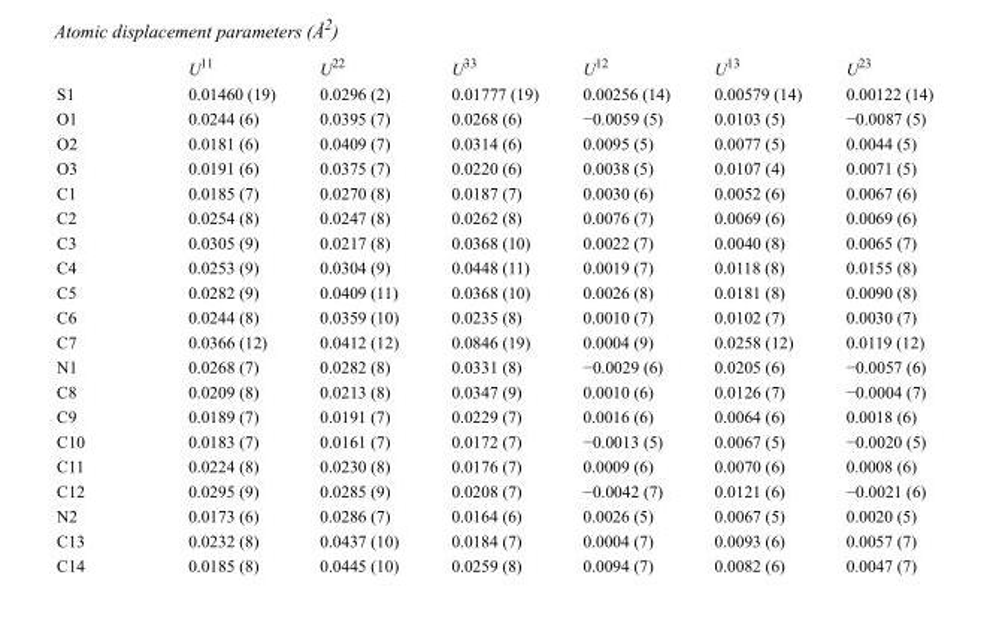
<table><thead><tr><td></td><td>U<sup>11</sup></td><td>U<sup>22</sup></td><td>U<sup>33</sup></td><td>U<sup>12</sup></td><td>U<sup>13</sup></td><td>U<sup>23</sup></td></tr></thead><tbody><tr><td>S1</td><td>0.01460 (19)</td><td>0.0296 (2)</td><td>0.01777 (19)</td><td>0.00256 (14)</td><td>0.00579 (14)</td><td>0.00122 (14)</td></tr><tr><td>O1</td><td>0.0244 (6)</td><td>0.0395 (7)</td><td>0.0268 (6)</td><td>−0.0059 (5)</td><td>0.0103 (5)</td><td>−0.0087 (5)</td></tr><tr><td>O2</td><td>0.0181 (6)</td><td>0.0409 (7)</td><td>0.0314 (6)</td><td>0.0095 (5)</td><td>0.0077 (5)</td><td>0.0044 (5)</td></tr><tr><td>O3</td><td>0.0191 (6)</td><td>0.0375 (7)</td><td>0.0220 (6)</td><td>0.0038 (5)</td><td>0.0107 (4)</td><td>0.0071 (5)</td></tr><tr><td>C1</td><td>0.0185 (7)</td><td>0.0270 (8)</td><td>0.0187 (7)</td><td>0.0030 (6)</td><td>0.0052 (6)</td><td>0.0067 (6)</td></tr><tr><td>C2</td><td>0.0254 (8)</td><td>0.0247 (8)</td><td>0.0262 (8)</td><td>0.0076 (7)</td><td>0.0069 (6)</td><td>0.0069 (6)</td></tr><tr><td>C3</td><td>0.0305 (9)</td><td>0.0217 (8)</td><td>0.0368 (10)</td><td>0.0022 (7)</td><td>0.0040 (8)</td><td>0.0065 (7)</td></tr><tr><td>C4</td><td>0.0253 (9)</td><td>0.0304 (9)</td><td>0.0448 (11)</td><td>0.0019 (7)</td><td>0.0118 (8)</td><td>0.0155 (8)</td></tr><tr><td>C5</td><td>0.0282 (9)</td><td>0.0409 (11)</td><td>0.0368 (10)</td><td>0.0026 (8)</td><td>0.0181 (8)</td><td>0.0090 (8)</td></tr><tr><td>C6</td><td>0.0244 (8)</td><td>0.0359 (10)</td><td>0.0235 (8)</td><td>0.0010 (7)</td><td>0.0102 (7)</td><td>0.0030 (7)</td></tr><tr><td>C7</td><td>0.0366 (12)</td><td>0.0412 (12)</td><td>0.0846 (19)</td><td>0.0004 (9)</td><td>0.0258 (12)</td><td>0.0119 (12)</td></tr><tr><td>N1</td><td>0.0268 (7)</td><td>0.0282 (8)</td><td>0.0331 (8)</td><td>−0.0029 (6)</td><td>0.0205 (6)</td><td>−0.0057 (6)</td></tr><tr><td>C8</td><td>0.0209 (8)</td><td>0.0213 (8)</td><td>0.0347 (9)</td><td>0.0010 (6)</td><td>0.0126 (7)</td><td>−0.0004 (7)</td></tr><tr><td>C9</td><td>0.0189 (7)</td><td>0.0191 (7)</td><td>0.0229 (7)</td><td>0.0016 (6)</td><td>0.0064 (6)</td><td>0.0018 (6)</td></tr><tr><td>C10</td><td>0.0183 (7)</td><td>0.0161 (7)</td><td>0.0172 (7)</td><td>−0.0013 (5)</td><td>0.0067 (5)</td><td>−0.0020 (5)</td></tr><tr><td>C11</td><td>0.0224 (8)</td><td>0.0230 (8)</td><td>0.0176 (7)</td><td>0.0009 (6)</td><td>0.0070 (6)</td><td>0.0008 (6)</td></tr><tr><td>C12</td><td>0.0295 (9)</td><td>0.0285 (9)</td><td>0.0208 (7)</td><td>−0.0042 (7)</td><td>0.0121 (6)</td><td>−0.0021 (6)</td></tr><tr><td>N2</td><td>0.0173 (6)</td><td>0.0286 (7)</td><td>0.0164 (6)</td><td>0.0026 (5)</td><td>0.0067 (5)</td><td>0.0020 (5)</td></tr><tr><td>C13</td><td>0.0232 (8)</td><td>0.0437 (10)</td><td>0.0184 (7)</td><td>0.0004 (7)</td><td>0.0093 (6)</td><td>0.0057 (7)</td></tr><tr><td>C14</td><td>0.0185 (8)</td><td>0.0445 (10)</td><td>0.0259 (8)</td><td>0.0094 (7)</td><td>0.0082 (6)</td><td>0.0047 (7)</td></tr></tbody></table>